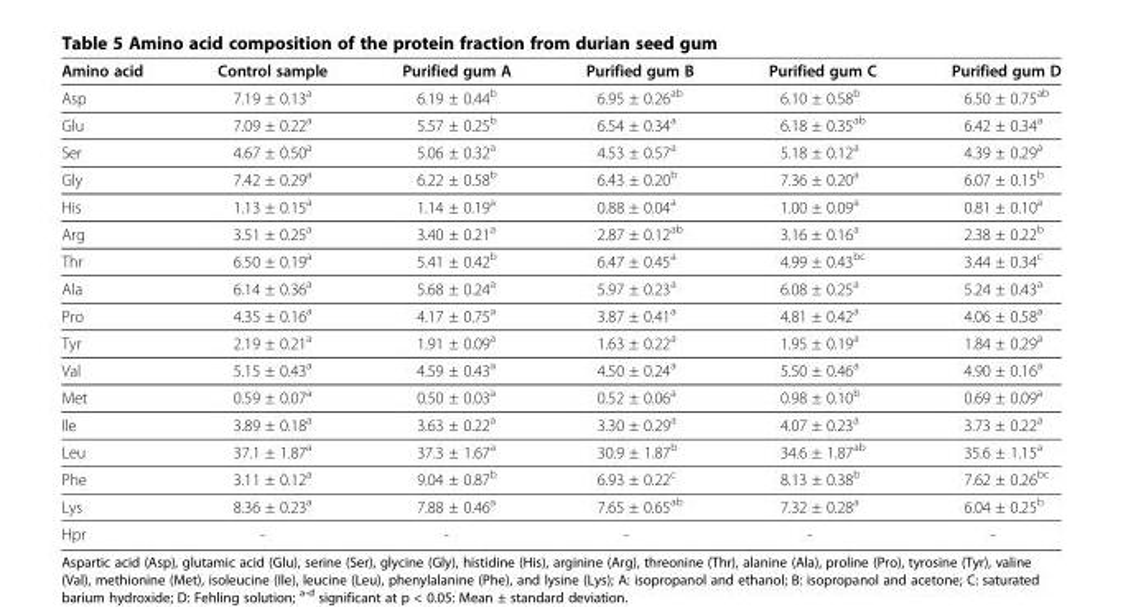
<table><thead><tr><td>Amino acid</td><td>Control sample</td><td>Purified gum A</td><td>Purified gum B</td><td>Purified gum C</td><td>Purified gum D</td></tr></thead><tbody><tr><td>Asp</td><td>7.19 ± 0.13<sup>a</sup></td><td>6.19 ± 0.44<sup>b</sup></td><td>6.95 ± 0.26<sup>ab</sup></td><td>6.10 ± 0.58<sup>b</sup></td><td>6.50 ± 0.75<sup>ab</sup></td></tr><tr><td>Glu</td><td>7.09 ± 0.22<sup>a</sup></td><td>5.57 ± 0.25<sup>b</sup></td><td>6.54 ± 0.34<sup>a</sup></td><td>6.18 ± 0.35<sup>ab</sup></td><td>6.42 ± 0.34<sup>a</sup></td></tr><tr><td>Ser</td><td>4.67 ± 0.50<sup>a</sup></td><td>5.06 ± 0.32<sup>a</sup></td><td>4.53 ± 0.57<sup>a</sup></td><td>5.18 ± 0.12<sup>a</sup></td><td>4.39 ± 0.29<sup>a</sup></td></tr><tr><td>Gly</td><td>7.42 ± 0.29<sup>a</sup></td><td>6.22 ± 0.58<sup>b</sup></td><td>6.43 ± 0.20<sup>b</sup></td><td>7.36 ± 0.20<sup>a</sup></td><td>6.07 ± 0.15<sup>b</sup></td></tr><tr><td>His</td><td>1.13 ± 0.15<sup>a</sup></td><td>1.14 ± 0.19<sup>a</sup></td><td>0.88 ± 0.04<sup>a</sup></td><td>1.00 ± 0.09<sup>a</sup></td><td>0.81 ± 0.10<sup>a</sup></td></tr><tr><td>Arg</td><td>3.51 ± 0.25<sup>a</sup></td><td>3.40 ± 0.21<sup>a</sup></td><td>2.87 ± 0.12<sup>ab</sup></td><td>3.16 ± 0.16<sup>a</sup></td><td>2.38 ± 0.22<sup>b</sup></td></tr><tr><td>Thr</td><td>6.50 ± 0.19<sup>a</sup></td><td>5.41 ± 0.42<sup>b</sup></td><td>6.47 ± 0.45<sup>a</sup></td><td>4.99 ± 0.43<sup>bc</sup></td><td>3.44 ± 0.34<sup>c</sup></td></tr><tr><td>Ala</td><td>6.14 ± 0.36<sup>a</sup></td><td>5.68 ± 0.24<sup>a</sup></td><td>5.97 ± 0.23<sup>a</sup></td><td>6.08 ± 0.25<sup>a</sup></td><td>5.24 ± 0.43<sup>a</sup></td></tr><tr><td>Pro</td><td>4.35 ± 0.16<sup>a</sup></td><td>4.17 ± 0.75<sup>a</sup></td><td>3.87 ± 0.41<sup>a</sup></td><td>4.81 ± 0.42<sup>a</sup></td><td>4.06 ± 0.58<sup>a</sup></td></tr><tr><td>Tyr</td><td>2.19 ± 0.21<sup>a</sup></td><td>1.91 ± 0.09<sup>a</sup></td><td>1.63 ± 0.22<sup>a</sup></td><td>1.95 ± 0.19<sup>a</sup></td><td>1.84 ± 0.29<sup>a</sup></td></tr><tr><td>Val</td><td>5.15 ± 0.43<sup>a</sup></td><td>4.59 ± 0.43<sup>a</sup></td><td>4.50 ± 0.24<sup>a</sup></td><td>5.50 ± 0.46<sup>a</sup></td><td>4.90 ± 0.16<sup>a</sup></td></tr><tr><td>Met</td><td>0.59 ± 0.07<sup>a</sup></td><td>0.50 ± 0.03<sup>a</sup></td><td>0.52 ± 0.06<sup>a</sup></td><td>0.98 ± 0.10<sup>b</sup></td><td>0.69 ± 0.09<sup>a</sup></td></tr><tr><td>Ile</td><td>3.89 ± 0.18<sup>a</sup></td><td>3.63 ± 0.22<sup>a</sup></td><td>3.30 ± 0.29<sup>a</sup></td><td>4.07 ± 0.23<sup>a</sup></td><td>3.73 ± 0.22<sup>a</sup></td></tr><tr><td>Leu</td><td>37.1 ± 1.87<sup>a</sup></td><td>37.3 ± 1.67<sup>a</sup></td><td>30.9 ± 1.87<sup>b</sup></td><td>34.6 ± 1.87<sup>ab</sup></td><td>35.6 ± 1.15<sup>a</sup></td></tr><tr><td>Phe</td><td>3.11 ± 0.12<sup>a</sup></td><td>9.04 ± 0.87<sup>b</sup></td><td>6.93 ± 0.22<sup>c</sup></td><td>8.13 ± 0.38<sup>b</sup></td><td>7.62 ± 0.26<sup>bc</sup></td></tr><tr><td>Lys</td><td>8.36 ± 0.23<sup>a</sup></td><td>7.88 ± 0.46<sup>a</sup></td><td>7.65 ± 0.65<sup>ab</sup></td><td>7.32 ± 0.28<sup>a</sup></td><td>6.04 ± 0.25<sup>b</sup></td></tr><tr><td>Hpr</td><td>-</td><td>-</td><td>-</td><td>-</td><td>-</td></tr></tbody></table>